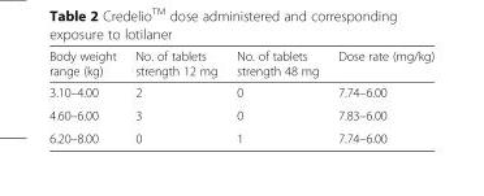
<table><thead><tr><td>Body weight range (kg)</td><td>No. of tablets strength 12 mg</td><td>No. of tablets strength 48 mg</td><td>Dose rate (mg/kg)</td></tr></thead><tbody><tr><td>3.10–4.00</td><td>2</td><td>0</td><td>7.74–6.00</td></tr><tr><td>4.60–6.00</td><td>3</td><td>0</td><td>7.83–6.00</td></tr><tr><td>6.20–8.00</td><td>0</td><td>1</td><td>7.74–6.00</td></tr></tbody></table>